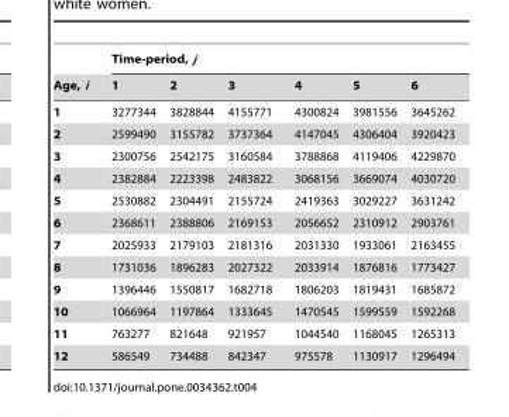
<table><thead><tr><td rowspan="2">Age, i</td><td colspan="6">Time-period, j</td></tr><tr><td>1</td><td>2</td><td>3</td><td>4</td><td>5</td><td>6</td></tr></thead><tbody><tr><td>1</td><td>3277344</td><td>3828844</td><td>4155771</td><td>4300824</td><td>3981556</td><td>3645262</td></tr><tr><td>2</td><td>2599490</td><td>3155782</td><td>3737364</td><td>4147045</td><td>4306404</td><td>3920423</td></tr><tr><td>3</td><td>2300756</td><td>2542175</td><td>3160584</td><td>3788868</td><td>4119406</td><td>4229870</td></tr><tr><td>4</td><td>2382884</td><td>2223398</td><td>2483822</td><td>3068156</td><td>3669074</td><td>4030720</td></tr><tr><td>5</td><td>2530882</td><td>2304491</td><td>2155724</td><td>2419363</td><td>3029227</td><td>3631242</td></tr><tr><td>6</td><td>2368611</td><td>2388806</td><td>2169153</td><td>2056652</td><td>2310912</td><td>2903761</td></tr><tr><td>7</td><td>2025933</td><td>2179103</td><td>2181316</td><td>2031330</td><td>1933061</td><td>2163455</td></tr><tr><td>8</td><td>1731036</td><td>1896283</td><td>2027322</td><td>2033914</td><td>1876816</td><td>1773427</td></tr><tr><td>9</td><td>1396446</td><td>1550817</td><td>1682718</td><td>1806203</td><td>1819431</td><td>1685872</td></tr><tr><td>10</td><td>1066964</td><td>1197864</td><td>1333645</td><td>1470545</td><td>1599559</td><td>1592268</td></tr><tr><td>11</td><td>763277</td><td>821648</td><td>921957</td><td>1044540</td><td>1168045</td><td>1265313</td></tr><tr><td>12</td><td>586549</td><td>734488</td><td>842347</td><td>975578</td><td>1130917</td><td>1296494</td></tr></tbody></table>